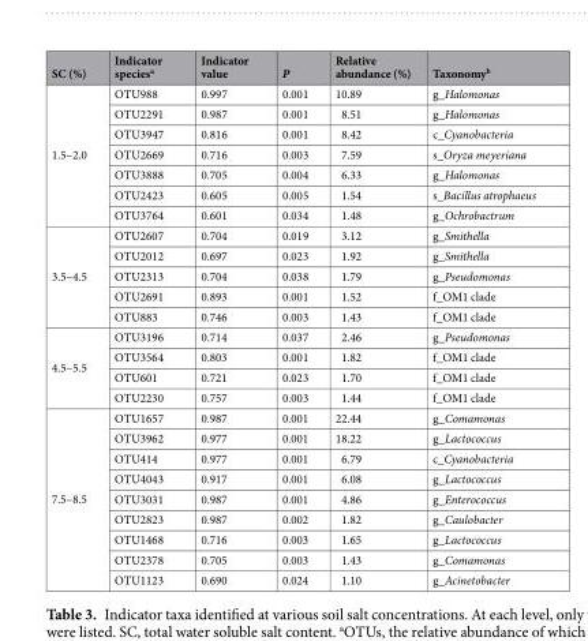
<table><thead><tr><td>SC (%)</td><td>Indicator species<sup>a</sup></td><td>Indicator value</td><td>P</td><td>Relative abundance (%)</td><td>Taxonomy<sup>b</sup></td></tr></thead><tbody><tr><td rowspan="7">1.5–2.0</td><td>OTU988</td><td>0.997</td><td>0.001</td><td>10.89</td><td>g_Halomonas</td></tr><tr><td>OTU2291</td><td>0.987</td><td>0.001</td><td>8.51</td><td>g_Halomonas</td></tr><tr><td>OTU3947</td><td>0.816</td><td>0.001</td><td>8.42</td><td>c_Cyanobacteria</td></tr><tr><td>OTU2669</td><td>0.716</td><td>0.003</td><td>7.59</td><td>s_Oryza meyeriana</td></tr><tr><td>OTU3888</td><td>0.705</td><td>0.004</td><td>6.33</td><td>g_Halomonas</td></tr><tr><td>OTU2423</td><td>0.605</td><td>0.005</td><td>1.54</td><td>s_Bacillus atrophaeus</td></tr><tr><td>OTU3764</td><td>0.601</td><td>0.034</td><td>1.48</td><td>g_Ochrobactrum</td></tr><tr><td rowspan="5">3.5–4.5</td><td>OTU2607</td><td>0.704</td><td>0.019</td><td>3.12</td><td>g_Smithella</td></tr><tr><td>OTU2012</td><td>0.697</td><td>0.023</td><td>1.92</td><td>g_Smithella</td></tr><tr><td>OTU2313</td><td>0.704</td><td>0.038</td><td>1.79</td><td>g_Pseudomonas</td></tr><tr><td>OTU2691</td><td>0.893</td><td>0.001</td><td>1.52</td><td>f_OM1 clade</td></tr><tr><td>OTU883</td><td>0.746</td><td>0.003</td><td>1.43</td><td>f_OM1 clade</td></tr><tr><td rowspan="4">4.5–5.5</td><td>OTU3196</td><td>0.714</td><td>0.037</td><td>2.46</td><td>g_Pseudomonas</td></tr><tr><td>OTU3564</td><td>0.803</td><td>0.001</td><td>1.82</td><td>f_OM1 clade</td></tr><tr><td>OTU601</td><td>0.721</td><td>0.023</td><td>1.70</td><td>f_OM1 clade</td></tr><tr><td>OTU2230</td><td>0.757</td><td>0.003</td><td>1.44</td><td>f_OM1 clade</td></tr><tr><td rowspan="9">7.5–8.5</td><td>OTU1657</td><td>0.987</td><td>0.001</td><td>22.44</td><td>g_Comamonas</td></tr><tr><td>OTU3962</td><td>0.977</td><td>0.001</td><td>18.22</td><td>g_Lactococcus</td></tr><tr><td>OTU414</td><td>0.977</td><td>0.001</td><td>6.79</td><td>c_Cyanobacteria</td></tr><tr><td>OTU4043</td><td>0.917</td><td>0.001</td><td>6.08</td><td>g_Lactococcus</td></tr><tr><td>OTU3031</td><td>0.987</td><td>0.001</td><td>4.86</td><td>g_Enterococcus</td></tr><tr><td>OTU2823</td><td>0.987</td><td>0.002</td><td>1.82</td><td>g_Caulobacter</td></tr><tr><td>OTU1468</td><td>0.716</td><td>0.003</td><td>1.65</td><td>g_Lactococcus</td></tr><tr><td>OTU2378</td><td>0.705</td><td>0.003</td><td>1.43</td><td>g_Comamonas</td></tr><tr><td>OTU1123</td><td>0.690</td><td>0.024</td><td>1.10</td><td>g_Acinetobacter</td></tr></tbody></table>